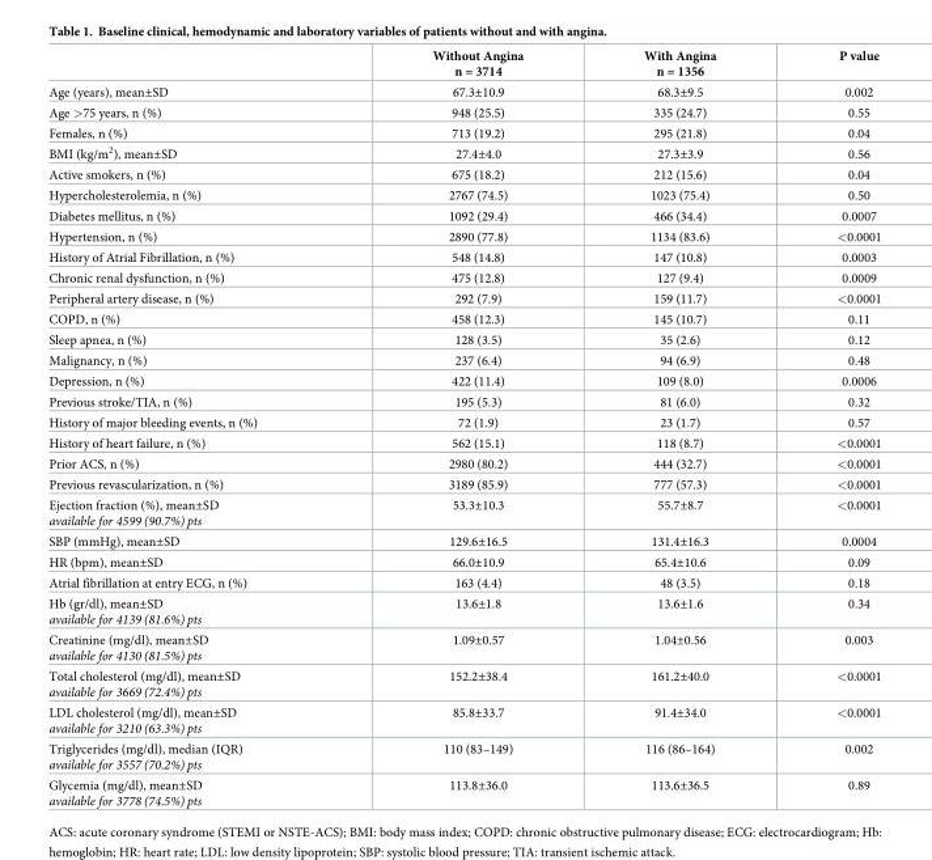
<table><thead><tr><td></td><td>Without Angina n = 3714</td><td>With Angina n = 1356</td><td>P value</td></tr></thead><tbody><tr><td>Age (years), mean±SD</td><td>67.3±10.9</td><td>68.3±9.5</td><td>0.002</td></tr><tr><td>Age &gt;75 years, n (%)</td><td>948 (25.5)</td><td>335 (24.7)</td><td>0.55</td></tr><tr><td>Females, n (%)</td><td>713 (19.2)</td><td>295 (21.8)</td><td>0.04</td></tr><tr><td>BMI (kg/m<sup>2</sup>), mean±SD</td><td>27.4±4.0</td><td>27.3±3.9</td><td>0.56</td></tr><tr><td>Active smokers, n (%)</td><td>675 (18.2)</td><td>212 (15.6)</td><td>0.04</td></tr><tr><td>Hypercholesterolemia, n (%)</td><td>2767 (74.5)</td><td>1023 (75.4)</td><td>0.50</td></tr><tr><td>Diabetes mellitus, n (%)</td><td>1092 (29.4)</td><td>466 (34.4)</td><td>0.0007</td></tr><tr><td>Hypertension, n (%)</td><td>2890 (77.8)</td><td>1134 (83.6)</td><td>&lt;0.0001</td></tr><tr><td>History of Atrial Fibrillation, n (%)</td><td>548 (14.8)</td><td>147 (10.8)</td><td>0.0003</td></tr><tr><td>Chronic renal dysfunction, n (%)</td><td>475 (12.8)</td><td>127 (9.4)</td><td>0.0009</td></tr><tr><td>Peripheral artery disease, n (%)</td><td>292 (7.9)</td><td>159 (11.7)</td><td>&lt;0.0001</td></tr><tr><td>COPD, n (%)</td><td>458 (12.3)</td><td>145 (10.7)</td><td>0.11</td></tr><tr><td>Sleep apnea, n (%)</td><td>128 (3.5)</td><td>35 (2.6)</td><td>0.12</td></tr><tr><td>Malignancy, n (%)</td><td>237 (6.4)</td><td>94 (6.9)</td><td>0.48</td></tr><tr><td>Depression, n (%)</td><td>422 (11.4)</td><td>109 (8.0)</td><td>0.0006</td></tr><tr><td>Previous stroke/TIA, n (%)</td><td>195 (5.3)</td><td>81 (6.0)</td><td>0.32</td></tr><tr><td>History of major bleeding events, n (%)</td><td>72 (1.9)</td><td>23 (1.7)</td><td>0.57</td></tr><tr><td>History of heart failure, n (%)</td><td>562 (15.1)</td><td>118 (8.7)</td><td>&lt;0.0001</td></tr><tr><td>Prior ACS, n (%)</td><td>2980 (80.2)</td><td>444 (32.7)</td><td>&lt;0.0001</td></tr><tr><td>Previous revascularization, n (%)</td><td>3189 (85.9)</td><td>777 (57.3)</td><td>&lt;0.0001</td></tr><tr><td>Ejection fraction (%), mean±SD available for 4599 (90.7%) pts</td><td>53.3±10.3</td><td>55.7±8.7</td><td>&lt;0.0001</td></tr><tr><td>SBP (mmHg), mean±SD</td><td>129.6±16.5</td><td>131.4±16.3</td><td>0.0004</td></tr><tr><td>HR (bpm), mean±SD</td><td>66.0±10.9</td><td>65.4±10.6</td><td>0.09</td></tr><tr><td>Atrial fibrillation at entry ECG, n (%)</td><td>163 (4.4)</td><td>48 (3.5)</td><td>0.18</td></tr><tr><td>Hb (gr/dl), mean±SD available for 4139 (81.6%) pts</td><td>13.6±1.8</td><td>13.6±1.6</td><td>0.34</td></tr><tr><td>Creatinine (mg/dl), mean±SD available for 4130 (81.5%) pts</td><td>1.09±0.57</td><td>1.04±0.56</td><td>0.003</td></tr><tr><td>Total cholesterol (mg/dl), mean±SD available for 3669 (72.4%) pts</td><td>152.2±38.4</td><td>161.2±40.0</td><td>&lt;0.0001</td></tr><tr><td>LDL cholesterol (mg/dl), mean±SD available for 3210 (63.3%) pts</td><td>85.8±33.7</td><td>91.4±34.0</td><td>&lt;0.0001</td></tr><tr><td>Triglycerides (mg/dl), median (IQR) available for 3557 (70.2%) pts</td><td>110 (83–149)</td><td>116 (86–164)</td><td>0.002</td></tr><tr><td>Glycemia (mg/dl), mean±SD available for 3778 (74.5%) pts</td><td>113.8±36.0</td><td>113.6±36.5</td><td>0.89</td></tr></tbody></table>